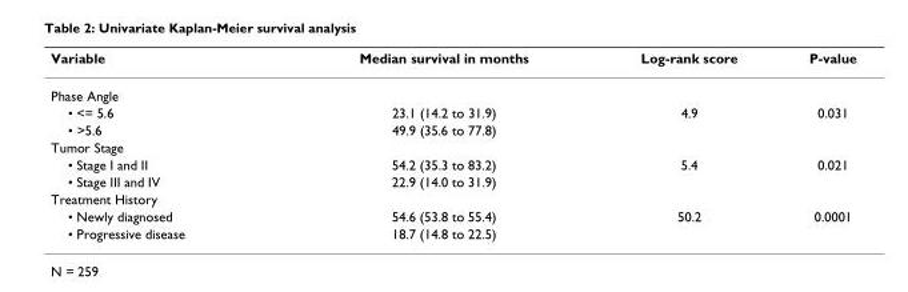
<table><thead><tr><td>Variable</td><td>Median survival in months</td><td>Log-rank score</td><td>P-value</td></tr></thead><tbody><tr><td colspan="4">Phase Angle</td></tr><tr><td>• &lt;= 5.6</td><td>23.1 (14.2 to 31.9)</td><td>4.9</td><td>0.031</td></tr><tr><td>• &gt;5.6</td><td>49.9 (35.6 to 77.8)</td><td></td><td></td></tr><tr><td colspan="4">Tumor Stage</td></tr><tr><td>• Stage I and II</td><td>54.2 (35.3 to 83.2)</td><td>5.4</td><td>0.021</td></tr><tr><td>• Stage III and IV</td><td>22.9 (14.0 to 31.9)</td><td></td><td></td></tr><tr><td colspan="4">Treatment History</td></tr><tr><td>• Newly diagnosed</td><td>54.6 (53.8 to 55.4)</td><td>50.2</td><td>0.0001</td></tr><tr><td>• Progressive disease</td><td>18.7 (14.8 to 22.5)</td><td></td><td></td></tr></tbody></table>